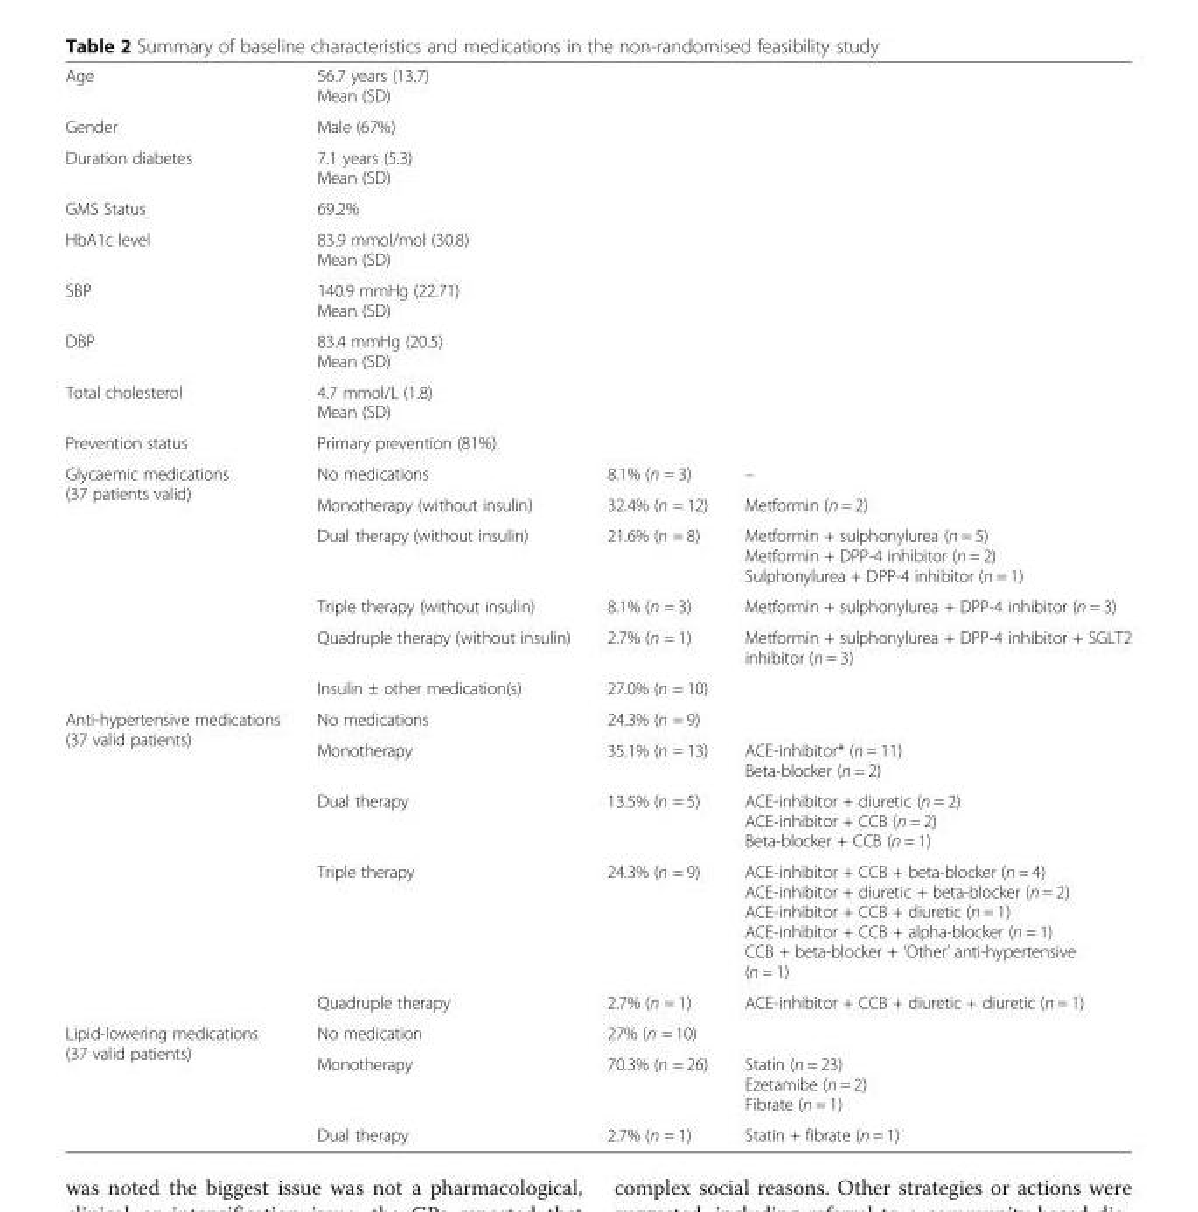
<table><tbody><tr><td>Age</td><td colspan="3">56.7 years (13.7) Mean (SD)</td></tr><tr><td>Gender</td><td colspan="3">Male (67%)</td></tr><tr><td>Duration diabetes</td><td colspan="3">7.1 years (5.3) Mean (SD)</td></tr><tr><td>GMS Status</td><td colspan="3">69.2%</td></tr><tr><td>HbA1c level</td><td colspan="3">83.9 mmol/mol (30.8) Mean (SD)</td></tr><tr><td>SBP</td><td colspan="3">140.9 mmHg (22.71) Mean (SD)</td></tr><tr><td>DBP</td><td colspan="3">83.4 mmHg (20.5) Mean (SD)</td></tr><tr><td>Total cholesterol</td><td colspan="3">4.7 mmol/L (1.8) Mean (SD)</td></tr><tr><td>Prevention status</td><td colspan="3">Primary prevention (81%)</td></tr><tr><td rowspan="6">Glycaemic medications (37 patients valid)</td><td>No medications</td><td>8.1% (n = 3)</td><td>–</td></tr><tr><td>Monotherapy (without insulin)</td><td>32.4% (n = 12)</td><td>Metformin (n = 2)</td></tr><tr><td>Dual therapy (without insulin)</td><td>21.6% (n = 8)</td><td>Metformin + sulphonylurea (n = 5) Metformin + DPP-4 inhibitor (n = 2) Sulphonylurea + DPP-4 inhibitor (n = 1)</td></tr><tr><td>Triple therapy (without insulin)</td><td>8.1% (n = 3)</td><td>Metformin + sulphonylurea + DPP-4 inhibitor (n = 3)</td></tr><tr><td>Quadruple therapy (without insulin)</td><td>2.7% (n = 1)</td><td>Metformin + sulphonylurea + DPP-4 inhibitor + SGLT2 inhibitor (n = 3)</td></tr><tr><td>Insulin ± other medication(s)</td><td>27.0% (n = 10)</td><td></td></tr><tr><td rowspan="5">Anti-hypertensive medications (37 valid patients)</td><td>No medications</td><td>24.3% (n = 9)</td><td></td></tr><tr><td>Monotherapy</td><td>35.1% (n = 13)</td><td>ACE-inhibitor* (n = 11) Beta-blocker (n = 2)</td></tr><tr><td>Dual therapy</td><td>13.5% (n = 5)</td><td>ACE-inhibitor + diuretic (n = 2) ACE-inhibitor + CCB (n = 2) Beta-blocker + CCB (n = 1)</td></tr><tr><td>Triple therapy</td><td>24.3% (n = 9)</td><td>ACE-inhibitor + CCB + beta-blocker (n = 4) ACE-inhibitor + diuretic + beta-blocker (n = 2) ACE-inhibitor + CCB + diuretic (n = 1) ACE-inhibitor + CCB + alpha-blocker (n = 1) CCB + beta-blocker + ‘Other’ anti-hypertensive (n = 1)</td></tr><tr><td>Quadruple therapy</td><td>2.7% (n = 1)</td><td>ACE-inhibitor + CCB + diuretic + diuretic (n = 1)</td></tr><tr><td rowspan="3">Lipid-lowering medications (37 valid patients)</td><td>No medication</td><td>27% (n = 10)</td><td></td></tr><tr><td>Monotherapy</td><td>70.3% (n = 26)</td><td>Statin (n = 23) Ezetamibe (n = 2) Fibrate (n = 1)</td></tr><tr><td>Dual therapy</td><td>2.7% (n = 1)</td><td>Statin + fibrate (n = 1)</td></tr></tbody></table>